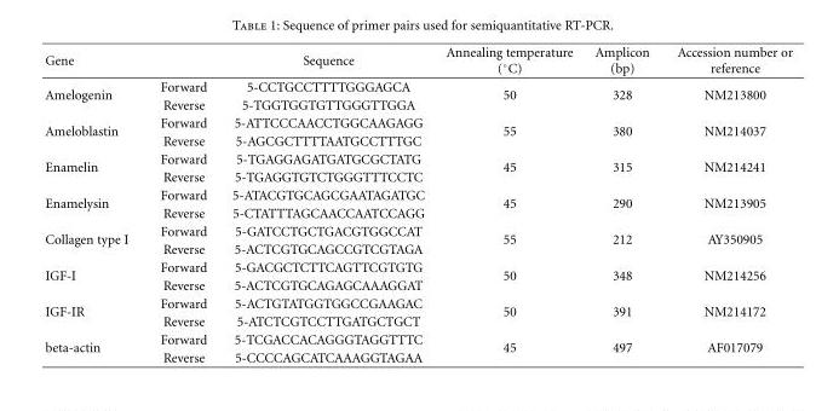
<table><thead><tr><td>Gene</td><td></td><td>Sequence</td><td>Annealing temperature (◦C)</td><td>Amplicon (bp)</td><td>Accession number or reference</td></tr></thead><tbody><tr><td rowspan="2">Amelogenin</td><td>Forward</td><td>5-CCTGCCTTTTGGGAGCA</td><td rowspan="2">50</td><td rowspan="2">328</td><td rowspan="2">NM213800</td></tr><tr><td>Reverse</td><td>5-TGGTGGTGTTGGGTTGGA</td></tr><tr><td rowspan="2">Ameloblastin</td><td>Forward</td><td>5-ATTCCCAACCTGGCAAGAGG</td><td rowspan="2">55</td><td rowspan="2">380</td><td rowspan="2">NM214037</td></tr><tr><td>Reverse</td><td>5-AGCGCTTTTAATGCCTTTGC</td></tr><tr><td rowspan="2">Enamelin</td><td>Forward</td><td>5-TGAGGAGATGATGCGCTATG</td><td rowspan="2">45</td><td rowspan="2">315</td><td rowspan="2">NM214241</td></tr><tr><td>Reverse</td><td>5-TGAGGTGTCTGGGTTTCCTC</td></tr><tr><td rowspan="2">Enamelysin</td><td>Forward</td><td>5-ATACGTGCAGCGAATAGATGC</td><td rowspan="2">45</td><td rowspan="2">290</td><td rowspan="2">NM213905</td></tr><tr><td>Reverse</td><td>5-CTATTTAGCAACCAATCCAGG</td></tr><tr><td rowspan="2">Collagen type I</td><td>Forward</td><td>5-GATCCTGCTGACGTGGCCAT</td><td rowspan="2">55</td><td rowspan="2">212</td><td rowspan="2">AY350905</td></tr><tr><td>Reverse</td><td>5-ACTCGTGCAGCCGTCGTAGA</td></tr><tr><td rowspan="2">IGF-I</td><td>Forward</td><td>5-GACGCTCTTCAGTTCGTGTG</td><td rowspan="2">50</td><td rowspan="2">348</td><td rowspan="2">NM214256</td></tr><tr><td>Reverse</td><td>5-ACTCGTGCAGAGCAAAGGAT</td></tr><tr><td rowspan="2">IGF-IR</td><td>Forward</td><td>5-ACTGTATGGTGGCCGAAGAC</td><td rowspan="2">50</td><td rowspan="2">391</td><td rowspan="2">NM214172</td></tr><tr><td>Reverse</td><td>5-ATCTCGTCCTTGATGCTGCT</td></tr><tr><td rowspan="2">beta-actin</td><td>Forward</td><td>5-TCGACCACAGGGTAGGTTTC</td><td rowspan="2">45</td><td rowspan="2">497</td><td rowspan="2">AF017079</td></tr><tr><td>Reverse</td><td>5-CCCCAGCATCAAAGGTAGAA</td></tr></tbody></table>